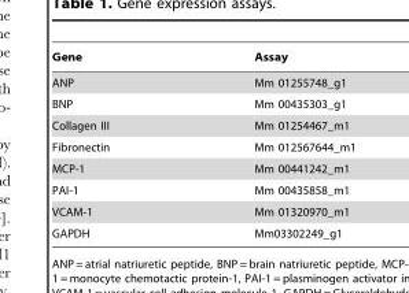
<table><thead><tr><td>Gene</td><td>Assay</td></tr></thead><tbody><tr><td>ANP</td><td>Mm 01255748_g1</td></tr><tr><td>BNP</td><td>Mm 00435303_g1</td></tr><tr><td>Collagen III</td><td>Mm 01254467_m1</td></tr><tr><td>Fibronectin</td><td>Mm 012567644_m1</td></tr><tr><td>MCP-1</td><td>Mm 00441242_m1</td></tr><tr><td>PAI-1</td><td>Mm 00435858_m1</td></tr><tr><td>VCAM-1</td><td>Mm 01320970_m1</td></tr><tr><td>GAPDH</td><td>Mm03302249_g1</td></tr></tbody></table>